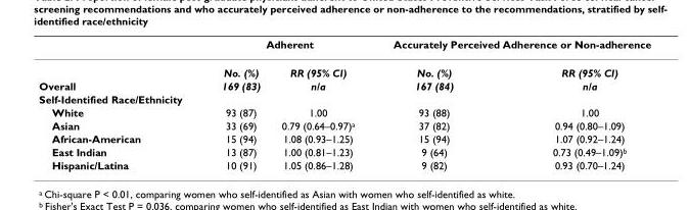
<table><thead><tr><td rowspan="2"></td><td colspan="2">Adherent</td><td colspan="2">Accurately Perceived Adherence or Non-adherence</td></tr><tr><td>No. (%)</td><td>RR (95% CI)</td><td>No. (%)</td><td>RR (95% CI)</td></tr></thead><tbody><tr><td>Overall</td><td>169 (83)</td><td>n/a</td><td>167 (84)</td><td>n/a</td></tr><tr><td colspan="5">Self-Identified Race/Ethnicity</td></tr><tr><td>White</td><td>93 (87)</td><td>1.00</td><td>93 (88)</td><td>1.00</td></tr><tr><td>Asian</td><td>33 (69)</td><td>0.79 (0.64–0.97)<sup>a</sup></td><td>37 (82)</td><td>0.94 (0.80–1.09)</td></tr><tr><td>African-American</td><td>15 (94)</td><td>1.08 (0.93–1.25)</td><td>15 (94)</td><td>1.07 (0.92–1.24)</td></tr><tr><td>East Indian</td><td>13 (87)</td><td>1.00 (0.81–1.23)</td><td>9 (64)</td><td>0.73 (0.49–1.09)<sup>b</sup></td></tr><tr><td>Hispanic/Latina</td><td>10 (91)</td><td>1.05 (0.86–1.28)</td><td>9 (82)</td><td>0.93 (0.70–1.24)</td></tr></tbody></table>